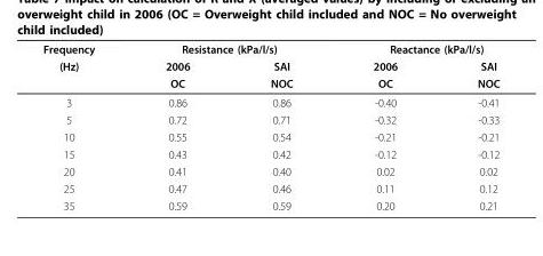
<table><thead><tr><td rowspan="3">Frequency (Hz)</td><td colspan="2">Resistance (kPa/l/s)</td><td colspan="2">Reactance (kPa/l/s)</td></tr><tr><td rowspan="2">2006 OC</td><td rowspan="2">SAI NOC</td><td rowspan="2">2006 OC</td><td rowspan="2">SAI NOC</td></tr><tr></tr></thead><tbody><tr><td>3</td><td>0.86</td><td>0.86</td><td>-0.40</td><td>-0.41</td></tr><tr><td>5</td><td>0.72</td><td>0.71</td><td>-0.32</td><td>-0.33</td></tr><tr><td>10</td><td>0.55</td><td>0.54</td><td>-0.21</td><td>-0.21</td></tr><tr><td>15</td><td>0.43</td><td>0.42</td><td>-0.12</td><td>-0.12</td></tr><tr><td>20</td><td>0.41</td><td>0.40</td><td>0.02</td><td>0.02</td></tr><tr><td>25</td><td>0.47</td><td>0.46</td><td>0.11</td><td>0.12</td></tr><tr><td>35</td><td>0.59</td><td>0.59</td><td>0.20</td><td>0.21</td></tr></tbody></table>